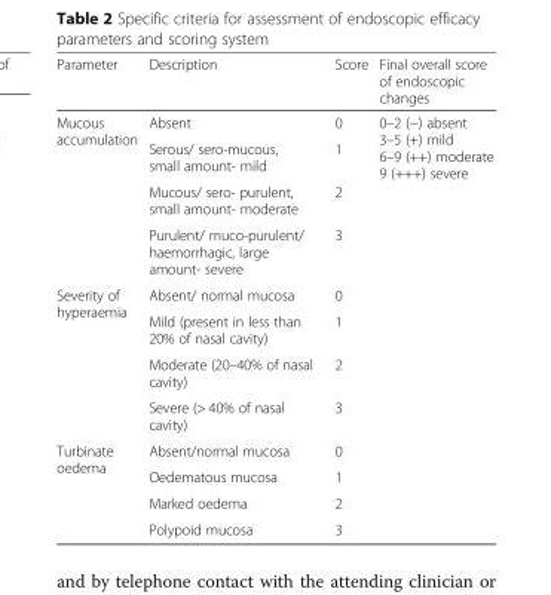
<table><thead><tr><td>Parameter</td><td>Description</td><td>Score</td><td>Final overall score of endoscopic changes</td></tr></thead><tbody><tr><td rowspan="4">Mucous accumulation</td><td>Absent</td><td>0</td><td rowspan="12">0–2 (−) absent 3–5 (+) mild 6–9 (++) moderate 9 (+++) severe</td></tr><tr><td>Serous/ sero-mucous, small amount- mild</td><td>1</td></tr><tr><td>Mucous/ sero- purulent, small amount- moderate</td><td>2</td></tr><tr><td>Purulent/ muco-purulent/ haemorrhagic, large amount- severe</td><td>3</td></tr><tr><td rowspan="4">Severity of hyperaemia</td><td>Absent/ normal mucosa</td><td>0</td></tr><tr><td>Mild (present in less than 20% of nasal cavity)</td><td>1</td></tr><tr><td>Moderate (20–40% of nasal cavity)</td><td>2</td></tr><tr><td>Severe (&gt; 40% of nasal cavity)</td><td>3</td></tr><tr><td rowspan="4">Turbinate oedema</td><td>Absent/normal mucosa</td><td>0</td></tr><tr><td>Oedematous mucosa</td><td>1</td></tr><tr><td>Marked oedema</td><td>2</td></tr><tr><td>Polypoid mucosa</td><td>3</td></tr></tbody></table>